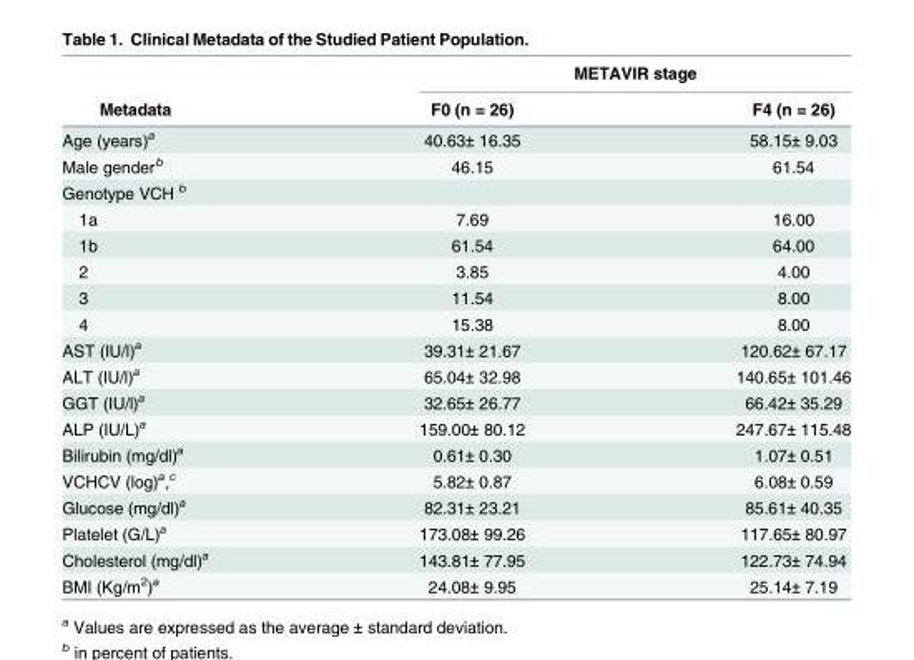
<table><thead><tr><td rowspan="2">Metadata</td><td colspan="2">METAVIR stage</td></tr><tr><td>F0 (n = 26)</td><td>F4 (n = 26)</td></tr></thead><tbody><tr><td>Age (years)<sup>a</sup></td><td>40.63± 16.35</td><td>58.15± 9.03</td></tr><tr><td>Male gender<sup>b</sup></td><td>46.15</td><td>61.54</td></tr><tr><td colspan="3">Genotype VCH <sup>b</sup></td></tr><tr><td>1a</td><td>7.69</td><td>16.00</td></tr><tr><td>1b</td><td>61.54</td><td>64.00</td></tr><tr><td>2</td><td>3.85</td><td>4.00</td></tr><tr><td>3</td><td>11.54</td><td>8.00</td></tr><tr><td>4</td><td>15.38</td><td>8.00</td></tr><tr><td>AST (IU/l)<sup>a</sup></td><td>39.31± 21.67</td><td>120.62± 67.17</td></tr><tr><td>ALT (IU/l)<sup>a</sup></td><td>65.04± 32.98</td><td>140.65± 101.46</td></tr><tr><td>GGT (IU/l)<sup>a</sup></td><td>32.65± 26.77</td><td>66.42± 35.29</td></tr><tr><td>ALP (IU/L)<sup>a</sup></td><td>159.00± 80.12</td><td>247.67± 115.48</td></tr><tr><td>Bilirubin (mg/dl)<sup>a</sup></td><td>0.61± 0.30</td><td>1.07± 0.51</td></tr><tr><td>VCHCV (log)<sup>a</sup>,<sup>c</sup></td><td>5.82± 0.87</td><td>6.08± 0.59</td></tr><tr><td>Glucose (mg/dl)<sup>a</sup></td><td>82.31± 23.21</td><td>85.61± 40.35</td></tr><tr><td>Platelet (G/L)<sup>a</sup></td><td>173.08± 99.26</td><td>117.65± 80.97</td></tr><tr><td>Cholesterol (mg/dl)<sup>a</sup></td><td>143.81± 77.95</td><td>122.73± 74.94</td></tr><tr><td>BMI (Kg/m<sup>2</sup>)<sup>a</sup></td><td>24.08± 9.95</td><td>25.14± 7.19</td></tr></tbody></table>